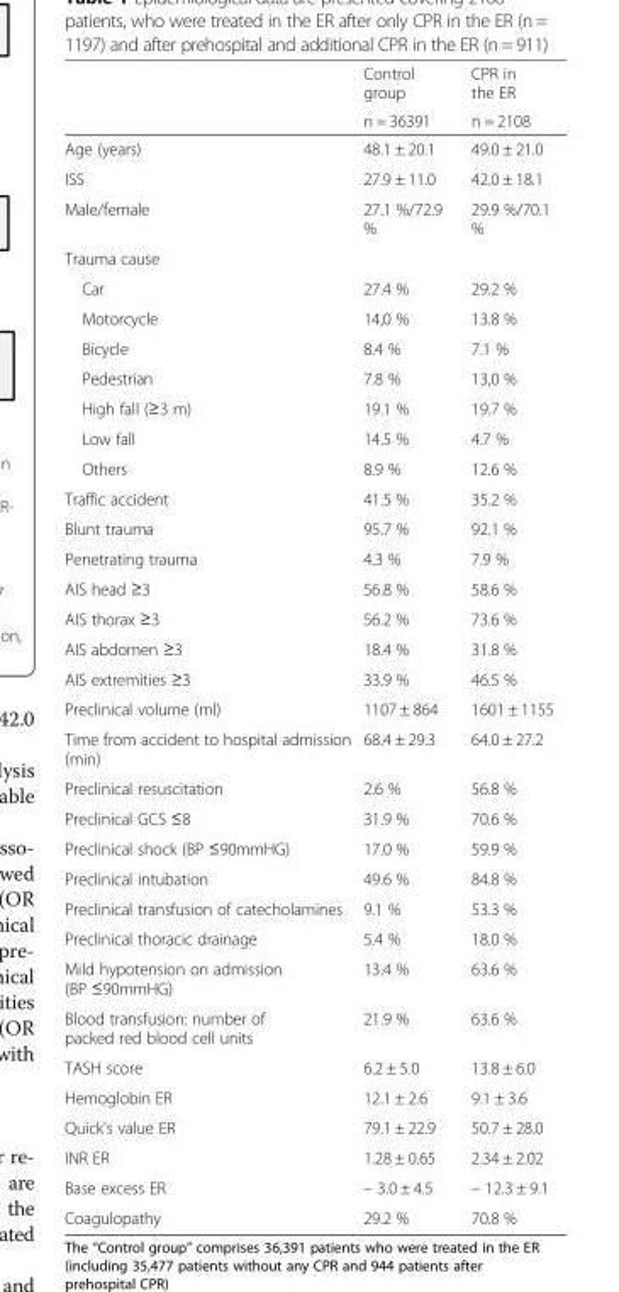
<table><thead><tr><td rowspan="2"></td><td rowspan="2">Control group n = 36391</td><td rowspan="2">CPR in the ER n = 2108</td></tr><tr></tr></thead><tbody><tr><td>Age (years)</td><td>48.1 ± 20.1</td><td>49.0 ± 21.0</td></tr><tr><td>ISS</td><td>27.9 ± 11.0</td><td>42.0 ± 18.1</td></tr><tr><td>Male/female</td><td>27.1 %/72.9 %</td><td>29.9 %/70.1 %</td></tr><tr><td colspan="3">Trauma cause</td></tr><tr><td>Car</td><td>27.4 %</td><td>29.2 %</td></tr><tr><td>Motorcycle</td><td>14,0 %</td><td>13.8 %</td></tr><tr><td>Bicycle</td><td>8.4 %</td><td>7.1 %</td></tr><tr><td>Pedestrian</td><td>7.8 %</td><td>13,0 %</td></tr><tr><td>High fall (≥3 m)</td><td>19.1 %</td><td>19.7 %</td></tr><tr><td>Low fall</td><td>14.5 %</td><td>4.7 %</td></tr><tr><td>Others</td><td>8.9 %</td><td>12.6 %</td></tr><tr><td>Traffic accident</td><td>41.5 %</td><td>35.2 %</td></tr><tr><td>Blunt trauma</td><td>95.7 %</td><td>92.1 %</td></tr><tr><td>Penetrating trauma</td><td>4.3 %</td><td>7.9 %</td></tr><tr><td>AIS head ≥3</td><td>56.8 %</td><td>58.6 %</td></tr><tr><td>AIS thorax ≥3</td><td>56.2 %</td><td>73.6 %</td></tr><tr><td>AIS abdomen ≥3</td><td>18.4 %</td><td>31.8 %</td></tr><tr><td>AIS extremities ≥3</td><td>33.9 %</td><td>46.5 %</td></tr><tr><td>Preclinical volume (ml)</td><td>1107 ± 864</td><td>1601 ± 1155</td></tr><tr><td>Time from accident to hospital admission (min)</td><td>68.4 ± 29.3</td><td>64.0 ± 27.2</td></tr><tr><td>Preclinical resuscitation</td><td>2.6 %</td><td>56.8 %</td></tr><tr><td>Preclinical GCS ≤8</td><td>31.9 %</td><td>70.6 %</td></tr><tr><td>Preclinical shock (BP ≤90mmHG)</td><td>17.0 %</td><td>59.9 %</td></tr><tr><td>Preclinical intubation</td><td>49.6 %</td><td>84.8 %</td></tr><tr><td>Preclinical transfusion of catecholamines</td><td>9.1 %</td><td>53.3 %</td></tr><tr><td>Preclinical thoracic drainage</td><td>5.4 %</td><td>18.0 %</td></tr><tr><td>Mild hypotension on admission (BP ≤90mmHG)</td><td>13.4 %</td><td>63.6 %</td></tr><tr><td>Blood transfusion: number of packed red blood cell units</td><td>21.9 %</td><td>63.6 %</td></tr><tr><td>TASH score</td><td>6.2 ± 5.0</td><td>13.8 ± 6.0</td></tr><tr><td>Hemoglobin ER</td><td>12.1 ± 2.6</td><td>9.1 ± 3.6</td></tr><tr><td>Quick’s value ER</td><td>79.1 ± 22.9</td><td>50.7 ± 28.0</td></tr><tr><td>INR ER</td><td>1.28 ± 0.65</td><td>2.34 ± 2.02</td></tr><tr><td>Base excess ER</td><td>– 3.0 ± 4.5</td><td>– 12.3 ± 9.1</td></tr><tr><td>Coagulopathy</td><td>29.2 %</td><td>70.8 %</td></tr></tbody></table>